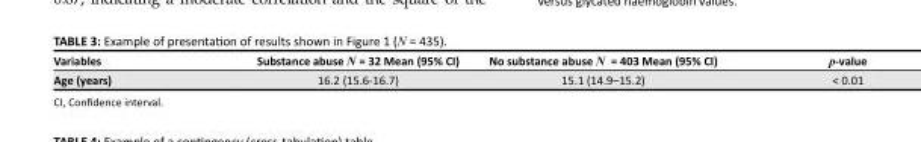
<table><thead><tr><td>Variables</td><td>Substance abuse N = 32 Mean (95% CI)</td><td>No substance abuse N = 403 Mean (95% CI)</td><td>p-value</td></tr></thead><tbody><tr><td>Age (years)</td><td>16.2 (15.6-16.7)</td><td>15.1 (14.9–15.2)</td><td>&lt; 0.01</td></tr></tbody></table>